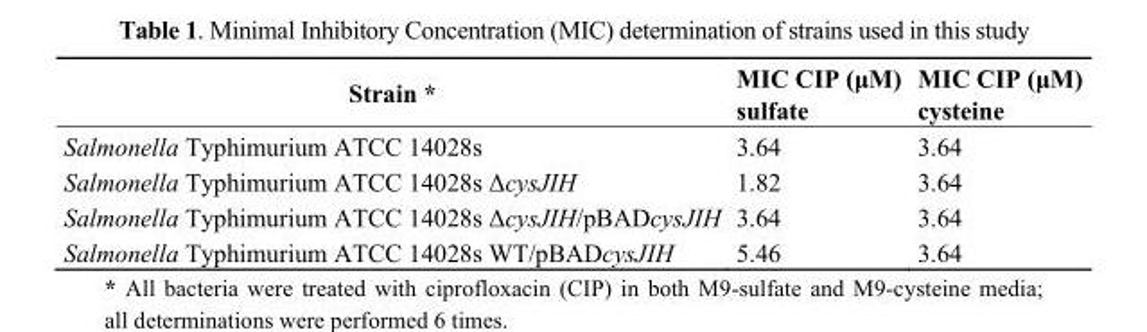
<table><thead><tr><td>Strain *</td><td>MIC CIP (μM) sulfate</td><td>MIC CIP (μM) cysteine</td></tr></thead><tbody><tr><td>Salmonella Typhimurium ATCC 14028s</td><td>3.64</td><td>3.64</td></tr><tr><td>Salmonella Typhimurium ATCC 14028s ΔcysJIH</td><td>1.82</td><td>3.64</td></tr><tr><td>Salmonella Typhimurium ATCC 14028s ΔcysJIH/pBADcysJIH</td><td>3.64</td><td>3.64</td></tr><tr><td>Salmonella Typhimurium ATCC 14028s WT/pBADcysJIH</td><td>5.46</td><td>3.64</td></tr></tbody></table>